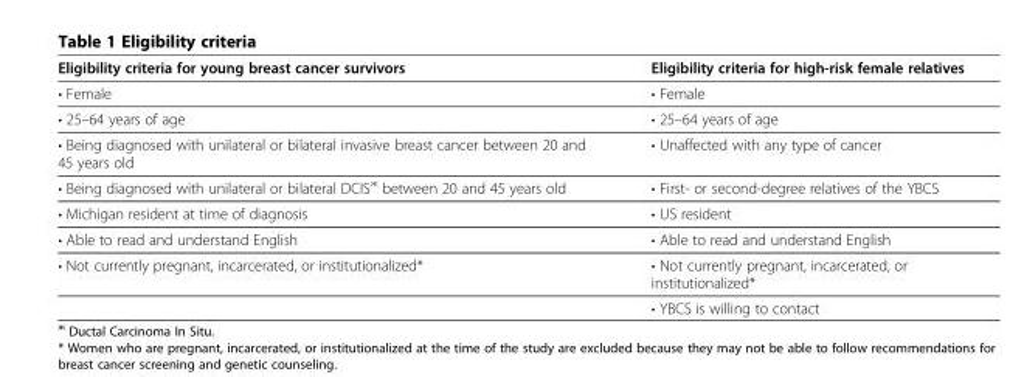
<table><thead><tr><td>Eligibility criteria for young breast cancer survivors</td><td>Eligibility criteria for high-risk female relatives</td></tr></thead><tbody><tr><td>• Female</td><td>• Female</td></tr><tr><td>• 25–64 years of age</td><td>• 25–64 years of age</td></tr><tr><td>• Being diagnosed with unilateral or bilateral invasive breast cancer between 20 and 45 years old</td><td>• Unaffected with any type of cancer</td></tr><tr><td>• Being diagnosed with unilateral or bilateral DCIS<sup>ж</sup> between 20 and 45 years old</td><td>• First- or second-degree relatives of the YBCS</td></tr><tr><td>• Michigan resident at time of diagnosis</td><td>• US resident</td></tr><tr><td>• Able to read and understand English</td><td>• Able to read and understand English</td></tr><tr><td rowspan="2">• Not currently pregnant, incarcerated, or institutionalized*</td><td>• Not currently pregnant, incarcerated, or institutionalized*</td></tr><tr><td>• YBCS is willing to contact</td></tr></tbody></table>